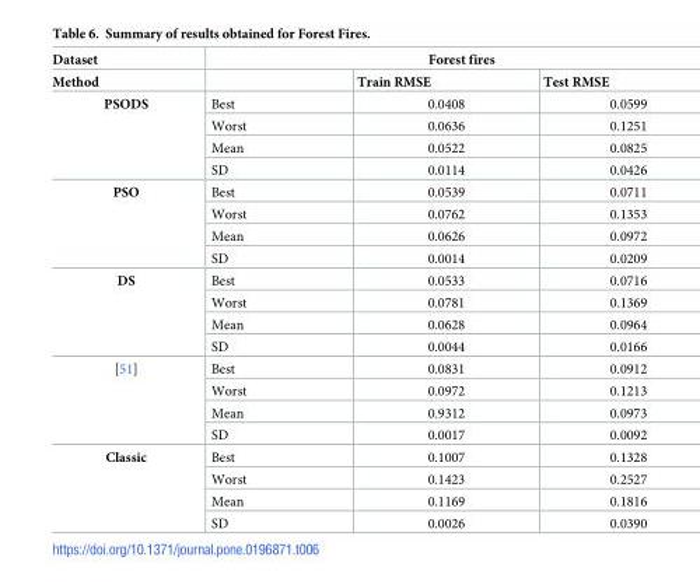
<table><thead><tr><td rowspan="2">Dataset Method</td><td colspan="3">Forest fires</td></tr><tr><td></td><td>Train RMSE</td><td>Test RMSE</td></tr></thead><tbody><tr><td rowspan="4">PSODS</td><td>Best</td><td>0.0408</td><td>0.0599</td></tr><tr><td>Worst</td><td>0.0636</td><td>0.1251</td></tr><tr><td>Mean</td><td>0.0522</td><td>0.0825</td></tr><tr><td>SD</td><td>0.0114</td><td>0.0426</td></tr><tr><td rowspan="4">PSO</td><td>Best</td><td>0.0539</td><td>0.0711</td></tr><tr><td>Worst</td><td>0.0762</td><td>0.1353</td></tr><tr><td>Mean</td><td>0.0626</td><td>0.0972</td></tr><tr><td>SD</td><td>0.0014</td><td>0.0209</td></tr><tr><td rowspan="4">DS</td><td>Best</td><td>0.0533</td><td>0.0716</td></tr><tr><td>Worst</td><td>0.0781</td><td>0.1369</td></tr><tr><td>Mean</td><td>0.0628</td><td>0.0964</td></tr><tr><td>SD</td><td>0.0044</td><td>0.0166</td></tr><tr><td rowspan="4">[51]</td><td>Best</td><td>0.0831</td><td>0.0912</td></tr><tr><td>Worst</td><td>0.0972</td><td>0.1213</td></tr><tr><td>Mean</td><td>0.9312</td><td>0.0973</td></tr><tr><td>SD</td><td>0.0017</td><td>0.0092</td></tr><tr><td rowspan="4">Classic</td><td>Best</td><td>0.1007</td><td>0.1328</td></tr><tr><td>Worst</td><td>0.1423</td><td>0.2527</td></tr><tr><td>Mean</td><td>0.1169</td><td>0.1816</td></tr><tr><td>SD</td><td>0.0026</td><td>0.0390</td></tr></tbody></table>